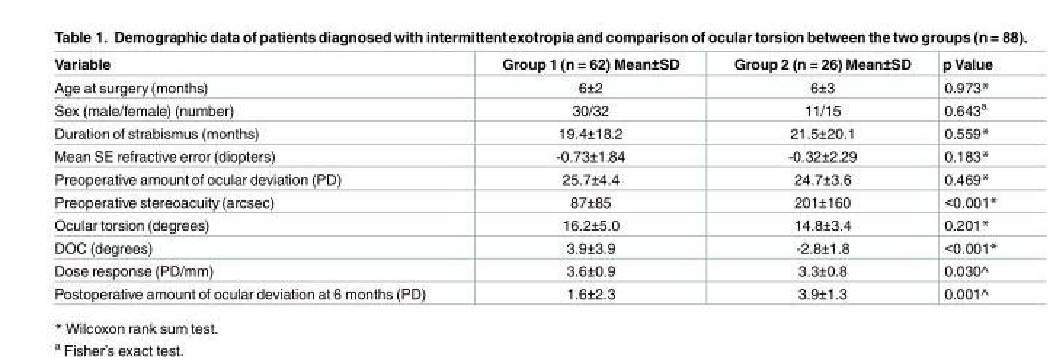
<table><thead><tr><td>Variable</td><td>Group 1 (n = 62) Mean±SD</td><td>Group 2 (n = 26) Mean±SD</td><td>p Value</td></tr></thead><tbody><tr><td>Age at surgery (months)</td><td>6±2</td><td>6±3</td><td>0.973*</td></tr><tr><td>Sex (male/female) (number)</td><td>30/32</td><td>11/15</td><td>0.643<sup>a</sup></td></tr><tr><td>Duration of strabismus (months)</td><td>19.4±18.2</td><td>21.5±20.1</td><td>0.559*</td></tr><tr><td>Mean SE refractive error (diopters)</td><td>-0.73±1.84</td><td>-0.32±2.29</td><td>0.183*</td></tr><tr><td>Preoperative amount of ocular deviation (PD)</td><td>25.7±4.4</td><td>24.7±3.6</td><td>0.469*</td></tr><tr><td>Preoperative stereoacuity (arcsec)</td><td>87±85</td><td>201±160</td><td>&lt;0.001*</td></tr><tr><td>Ocular torsion (degrees)</td><td>16.2±5.0</td><td>14.8±3.4</td><td>0.201*</td></tr><tr><td>DOC (degrees)</td><td>3.9±3.9</td><td>-2.8±1.8</td><td>&lt;0.001*</td></tr><tr><td>Dose response (PD/mm)</td><td>3.6±0.9</td><td>3.3±0.8</td><td>0.030^</td></tr><tr><td>Postoperative amount of ocular deviation at 6 months (PD)</td><td>1.6±2.3</td><td>3.9±1.3</td><td>0.001^</td></tr></tbody></table>